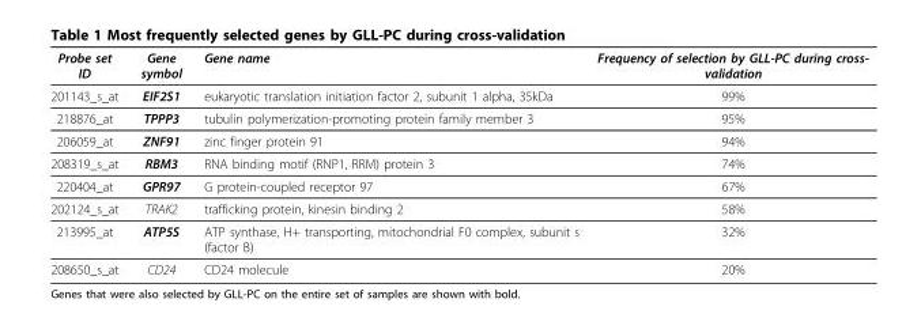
<table><thead><tr><td>Probe set ID</td><td>Gene symbol</td><td>Gene name</td><td>Frequency of selection by GLL-PC during cross- validation</td></tr></thead><tbody><tr><td>201143_s_at</td><td>EIF2S1</td><td>eukaryotic translation initiation factor 2, subunit 1 alpha, 35kDa</td><td>99%</td></tr><tr><td>218876_at</td><td>TPPP3</td><td>tubulin polymerization-promoting protein family member 3</td><td>95%</td></tr><tr><td>206059_at</td><td>ZNF91</td><td>zinc finger protein 91</td><td>94%</td></tr><tr><td>208319_s_at</td><td>RBM3</td><td>RNA binding motif (RNP1, RRM) protein 3</td><td>74%</td></tr><tr><td>220404_at</td><td>GPR97</td><td>G protein-coupled receptor 97</td><td>67%</td></tr><tr><td>202124_s_at</td><td>TRAK2</td><td>trafficking protein, kinesin binding 2</td><td>58%</td></tr><tr><td>213995_at</td><td>ATP5S</td><td>ATP synthase, H+ transporting, mitochondrial F0 complex, subunit s (factor B)</td><td>32%</td></tr><tr><td>208650_s_at</td><td>CD24</td><td>CD24 molecule</td><td>20%</td></tr></tbody></table>